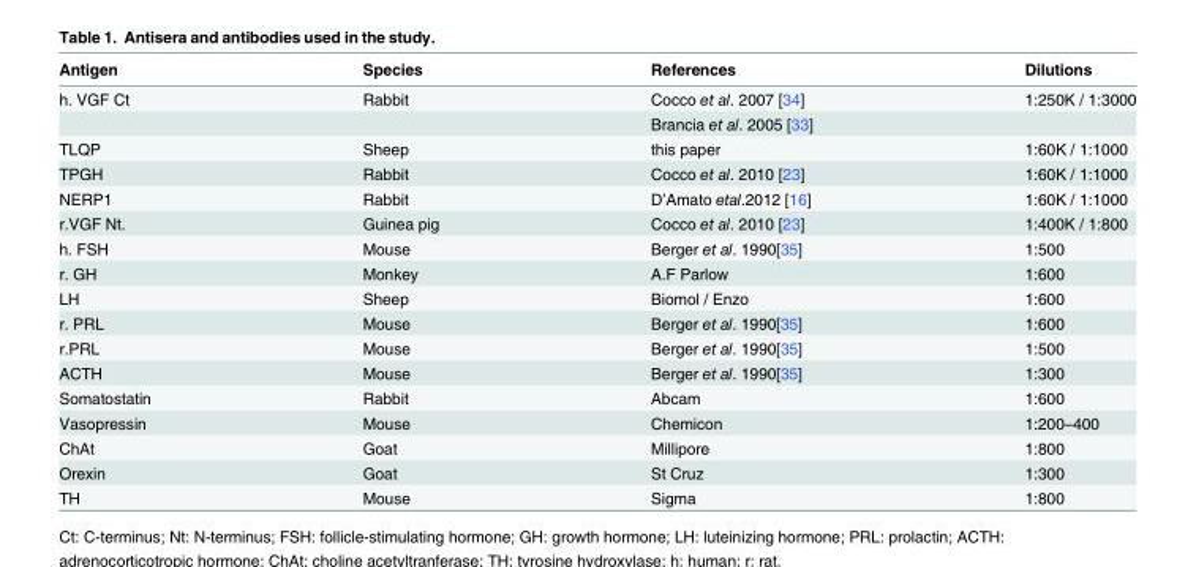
<table><thead><tr><td>Antigen</td><td>Species</td><td>References</td><td>Dilutions</td></tr></thead><tbody><tr><td rowspan="2">h. VGF Ct</td><td>Rabbit</td><td>Cocco et al. 2007 [34]</td><td>1:250K / 1:3000</td></tr><tr><td></td><td>Brancia et al. 2005 [33]</td><td></td></tr><tr><td>TLQP</td><td>Sheep</td><td>this paper</td><td>1:60K / 1:1000</td></tr><tr><td>TPGH</td><td>Rabbit</td><td>Cocco et al. 2010 [23]</td><td>1:60K / 1:1000</td></tr><tr><td>NERP1</td><td>Rabbit</td><td>D’Amato etal.2012 [16]</td><td>1:60K / 1:1000</td></tr><tr><td>r.VGF Nt.</td><td>Guinea pig</td><td>Cocco et al. 2010 [23]</td><td>1:400K / 1:800</td></tr><tr><td>h. FSH</td><td>Mouse</td><td>Berger et al. 1990[35]</td><td>1:500</td></tr><tr><td>r. GH</td><td>Monkey</td><td>A.F Parlow</td><td>1:600</td></tr><tr><td>LH</td><td>Sheep</td><td>Biomol / Enzo</td><td>1:600</td></tr><tr><td>r. PRL</td><td>Mouse</td><td>Berger et al. 1990[35]</td><td>1:600</td></tr><tr><td>r.PRL</td><td>Mouse</td><td>Berger et al. 1990[35]</td><td>1:500</td></tr><tr><td>ACTH</td><td>Mouse</td><td>Berger et al. 1990[35]</td><td>1:300</td></tr><tr><td>Somatostatin</td><td>Rabbit</td><td>Abcam</td><td>1:600</td></tr><tr><td>Vasopressin</td><td>Mouse</td><td>Chemicon</td><td>1:200–400</td></tr><tr><td>ChAt</td><td>Goat</td><td>Millipore</td><td>1:800</td></tr><tr><td>Orexin</td><td>Goat</td><td>St Cruz</td><td>1:300</td></tr><tr><td>TH</td><td>Mouse</td><td>Sigma</td><td>1:800</td></tr></tbody></table>